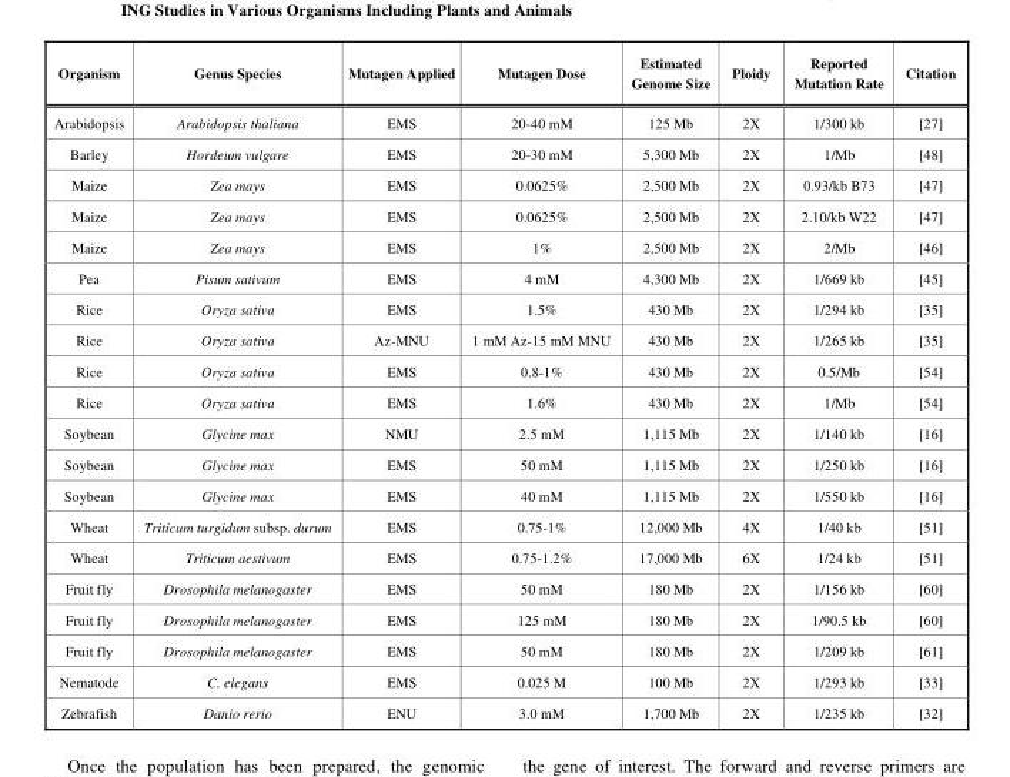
<table><thead><tr><td>Organism</td><td>Genus Species</td><td>Mutagen Applied</td><td>Mutagen Dose</td><td>Estimated Genome Size</td><td>Ploidy</td><td>Reported Mutation Rate</td><td>Citation</td></tr></thead><tbody><tr><td>Arabidopsis</td><td>Arabidopsis thaliana</td><td>EMS</td><td>20-40 mM</td><td>125 Mb</td><td>2X</td><td>1/300 kb</td><td>[27]</td></tr><tr><td>Barley</td><td>Hordeum vulgare</td><td>EMS</td><td>20-30 mM</td><td>5,300 Mb</td><td>2X</td><td>1/Mb</td><td>[48]</td></tr><tr><td>Maize</td><td>Zea mays</td><td>EMS</td><td>0.0625%</td><td>2,500 Mb</td><td>2X</td><td>0.93/kb B73</td><td>[47]</td></tr><tr><td>Maize</td><td>Zea mays</td><td>EMS</td><td>0.0625%</td><td>2,500 Mb</td><td>2X</td><td>2.10/kb W22</td><td>[47]</td></tr><tr><td>Maize</td><td>Zea mays</td><td>EMS</td><td>1%</td><td>2,500 Mb</td><td>2X</td><td>2/Mb</td><td>[46]</td></tr><tr><td>Pea</td><td>Pisum sativum</td><td>EMS</td><td>4 mM</td><td>4,300 Mb</td><td>2X</td><td>1/669 kb</td><td>[45]</td></tr><tr><td>Rice</td><td>Oryza sativa</td><td>EMS</td><td>1.5%</td><td>430 Mb</td><td>2X</td><td>1/294 kb</td><td>[35]</td></tr><tr><td>Rice</td><td>Oryza sativa</td><td>Az-MNU</td><td>1 mM Az-15 mM MNU</td><td>430 Mb</td><td>2X</td><td>1/265 kb</td><td>[35]</td></tr><tr><td>Rice</td><td>Oryza sativa</td><td>EMS</td><td>0.8-1%</td><td>430 Mb</td><td>2X</td><td>0.5/Mb</td><td>[54]</td></tr><tr><td>Rice</td><td>Oryza sativa</td><td>EMS</td><td>1.6%</td><td>430 Mb</td><td>2X</td><td>1/Mb</td><td>[54]</td></tr><tr><td>Soybean</td><td>Glycine max</td><td>NMU</td><td>2.5 mM</td><td>1,115 Mb</td><td>2X</td><td>1/140 kb</td><td>[16]</td></tr><tr><td>Soybean</td><td>Glycine max</td><td>EMS</td><td>50 mM</td><td>1,115 Mb</td><td>2X</td><td>1/250 kb</td><td>[16]</td></tr><tr><td>Soybean</td><td>Glycine max</td><td>EMS</td><td>40 mM</td><td>1,115 Mb</td><td>2X</td><td>1/550 kb</td><td>[16]</td></tr><tr><td>Wheat</td><td>Triticum turgidum subsp. durum</td><td>EMS</td><td>0.75-1%</td><td>12,000 Mb</td><td>4X</td><td>1/40 kb</td><td>[51]</td></tr><tr><td>Wheat</td><td>Triticum aestivum</td><td>EMS</td><td>0.75-1.2%</td><td>17,000 Mb</td><td>6X</td><td>1/24 kb</td><td>[51]</td></tr><tr><td>Fruit fly</td><td>Drosophila melanogaster</td><td>EMS</td><td>50 mM</td><td>180 Mb</td><td>2X</td><td>1/156 kb</td><td>[60]</td></tr><tr><td>Fruit fly</td><td>Drosophila melanogaster</td><td>EMS</td><td>125 mM</td><td>180 Mb</td><td>2X</td><td>1/90.5 kb</td><td>[60]</td></tr><tr><td>Fruit fly</td><td>Drosophila melanogaster</td><td>EMS</td><td>50 mM</td><td>180 Mb</td><td>2X</td><td>1/209 kb</td><td>[61]</td></tr><tr><td>Nematode</td><td>C. elegans</td><td>EMS</td><td>0.025 M</td><td>100 Mb</td><td>2X</td><td>1/293 kb</td><td>[33]</td></tr><tr><td>Zebrafish</td><td>Danio rerio</td><td>ENU</td><td>3.0 mM</td><td>1,700 Mb</td><td>2X</td><td>1/235 kb</td><td>[32]</td></tr></tbody></table>